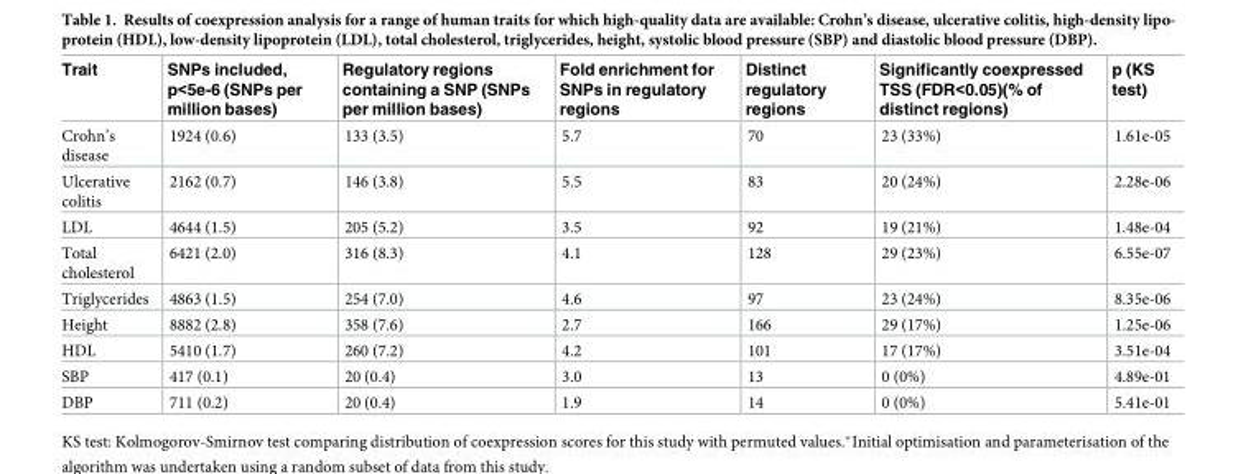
<table><thead><tr><td>Trait</td><td>SNPs included, p&lt;5e-6 (SNPs per million bases)</td><td>Regulatory regions containing a SNP (SNPs per million bases)</td><td>Fold enrichment for SNPs in regulatory regions</td><td>Distinct regulatory regions</td><td>Significantly coexpressed TSS (FDR&lt;0.05)(% of distinct regions)</td><td>p (KS test)</td></tr></thead><tbody><tr><td>Crohn’s disease</td><td>1924 (0.6)</td><td>133 (3.5)</td><td>5.7</td><td>70</td><td>23 (33%)</td><td>1.61e-05</td></tr><tr><td>Ulcerative colitis</td><td>2162 (0.7)</td><td>146 (3.8)</td><td>5.5</td><td>83</td><td>20 (24%)</td><td>2.28e-06</td></tr><tr><td>LDL</td><td>4644 (1.5)</td><td>205 (5.2)</td><td>3.5</td><td>92</td><td>19 (21%)</td><td>1.48e-04</td></tr><tr><td>Total cholesterol</td><td>6421 (2.0)</td><td>316 (8.3)</td><td>4.1</td><td>128</td><td>29 (23%)</td><td>6.55e-07</td></tr><tr><td>Triglycerides</td><td>4863 (1.5)</td><td>254 (7.0)</td><td>4.6</td><td>97</td><td>23 (24%)</td><td>8.35e-06</td></tr><tr><td>Height</td><td>8882 (2.8)</td><td>358 (7.6)</td><td>2.7</td><td>166</td><td>29 (17%)</td><td>1.25e-06</td></tr><tr><td>HDL</td><td>5410 (1.7)</td><td>260 (7.2)</td><td>4.2</td><td>101</td><td>17 (17%)</td><td>3.51e-04</td></tr><tr><td>SBP</td><td>417 (0.1)</td><td>20 (0.4)</td><td>3.0</td><td>13</td><td>0 (0%)</td><td>4.89e-01</td></tr><tr><td>DBP</td><td>711 (0.2)</td><td>20 (0.4)</td><td>1.9</td><td>14</td><td>0 (0%)</td><td>5.41e-01</td></tr></tbody></table>